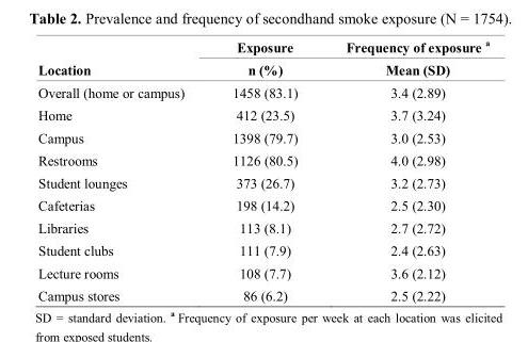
<table><thead><tr><td rowspan="2">Location</td><td rowspan="2">Exposure n (%)</td><td rowspan="2">Frequency of exposure <sup>a</sup> Mean (SD)</td></tr><tr></tr></thead><tbody><tr><td>Overall (home or campus)</td><td>1458 (83.1)</td><td>3.4 (2.89)</td></tr><tr><td>Home</td><td>412 (23.5)</td><td>3.7 (3.24)</td></tr><tr><td>Campus</td><td>1398 (79.7)</td><td>3.0 (2.53)</td></tr><tr><td>Restrooms</td><td>1126 (80.5)</td><td>4.0 (2.98)</td></tr><tr><td>Student lounges</td><td>373 (26.7)</td><td>3.2 (2.73)</td></tr><tr><td>Cafeterias</td><td>198 (14.2)</td><td>2.5 (2.30)</td></tr><tr><td>Libraries</td><td>113 (8.1)</td><td>2.7 (2.72)</td></tr><tr><td>Student clubs</td><td>111 (7.9)</td><td>2.4 (2.63)</td></tr><tr><td>Lecture rooms</td><td>108 (7.7)</td><td>3.6 (2.12)</td></tr><tr><td>Campus stores</td><td>86 (6.2)</td><td>2.5 (2.22)</td></tr></tbody></table>